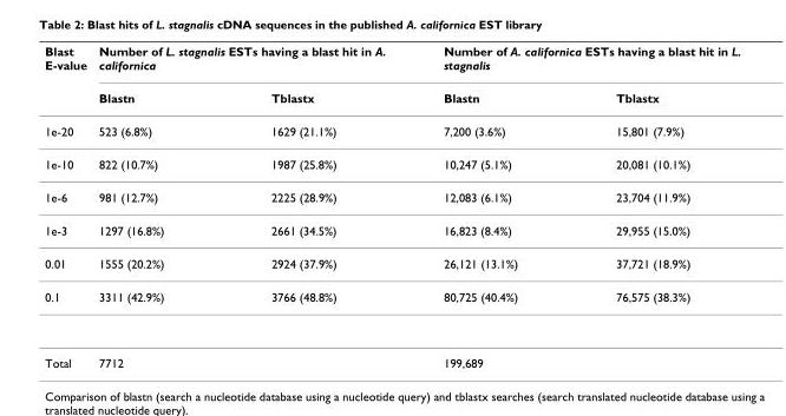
<table><thead><tr><td rowspan="2">Blast E-value</td><td colspan="2">Number of L. stagnalis ESTs having a blast hit in A. californica</td><td colspan="2">Number of A. californica ESTs having a blast hit in L. stagnalis</td></tr><tr><td>Blastn</td><td>Tblastx</td><td>Blastn</td><td>Tblastx</td></tr></thead><tbody><tr><td>1e-20</td><td>523 (6.8%)</td><td>1629 (21.1%)</td><td>7,200 (3.6%)</td><td>15,801 (7.9%)</td></tr><tr><td>1e-10</td><td>822 (10.7%)</td><td>1987 (25.8%)</td><td>10,247 (5.1%)</td><td>20,081 (10.1%)</td></tr><tr><td>1e-6</td><td>981 (12.7%)</td><td>2225 (28.9%)</td><td>12,083 (6.1%)</td><td>23,704 (11.9%)</td></tr><tr><td>1e-3</td><td>1297 (16.8%)</td><td>2661 (34.5%)</td><td>16,823 (8.4%)</td><td>29,955 (15.0%)</td></tr><tr><td>0.01</td><td>1555 (20.2%)</td><td>2924 (37.9%)</td><td>26,121 (13.1%)</td><td>37,721 (18.9%)</td></tr><tr><td>0.1</td><td>3311 (42.9%)</td><td>3766 (48.8%)</td><td>80,725 (40.4%)</td><td>76,575 (38.3%)</td></tr><tr><td>Total</td><td>7712</td><td></td><td>199,689</td><td></td></tr></tbody></table>